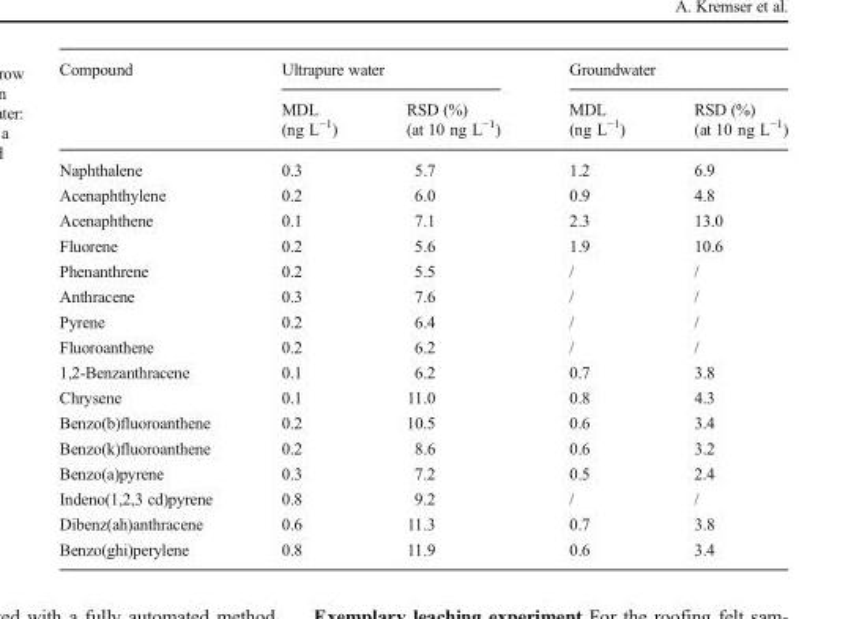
<table><thead><tr><td rowspan="2">Compound</td><td colspan="2">Ultrapure water</td><td colspan="2">Groundwater</td></tr><tr><td>MDL (ng L<sup>−1</sup>)</td><td>RSD (%) (at 10 ng L<sup>−1</sup>)</td><td>MDL (ng L<sup>−1</sup>)</td><td>RSD (%) (at 10 ng L<sup>−1</sup>)</td></tr></thead><tbody><tr><td>Naphthalene</td><td>0.3</td><td>5.7</td><td>1.2</td><td>6.9</td></tr><tr><td>Acenaphthylene</td><td>0.2</td><td>6.0</td><td>0.9</td><td>4.8</td></tr><tr><td>Acenaphthene</td><td>0.1</td><td>7.1</td><td>2.3</td><td>13.0</td></tr><tr><td>Fluorene</td><td>0.2</td><td>5.6</td><td>1.9</td><td>10.6</td></tr><tr><td>Phenanthrene</td><td>0.2</td><td>5.5</td><td>/</td><td>/</td></tr><tr><td>Anthracene</td><td>0.3</td><td>7.6</td><td>/</td><td>/</td></tr><tr><td>Pyrene</td><td>0.2</td><td>6.4</td><td>/</td><td>/</td></tr><tr><td>Fluoroanthene</td><td>0.2</td><td>6.2</td><td>/</td><td>/</td></tr><tr><td>1,2-Benzanthracene</td><td>0.1</td><td>6.2</td><td>0.7</td><td>3.8</td></tr><tr><td>Chrysene</td><td>0.1</td><td>11.0</td><td>0.8</td><td>4.3</td></tr><tr><td>Benzo(b)fluoroanthene</td><td>0.2</td><td>10.5</td><td>0.6</td><td>3.4</td></tr><tr><td>Benzo(k)fluoroanthene</td><td>0.2</td><td>8.6</td><td>0.6</td><td>3.2</td></tr><tr><td>Benzo(a)pyrene</td><td>0.3</td><td>7.2</td><td>0.5</td><td>2.4</td></tr><tr><td>Indeno(1,2,3 cd)pyrene</td><td>0.8</td><td>9.2</td><td>/</td><td>/</td></tr><tr><td>Dibenz(ah)anthracene</td><td>0.6</td><td>11.3</td><td>0.7</td><td>3.8</td></tr><tr><td>Benzo(ghi)perylene</td><td>0.8</td><td>11.9</td><td>0.6</td><td>3.4</td></tr></tbody></table>